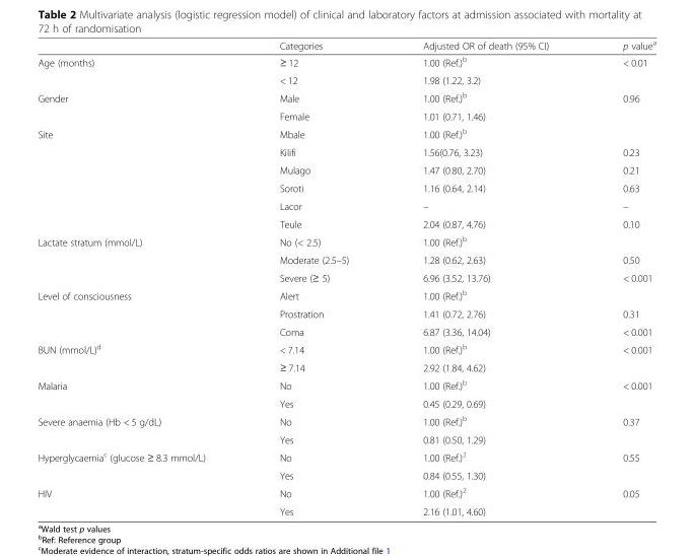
<table><thead><tr><td></td><td>Categories</td><td>Adjusted OR of death (95% CI)</td><td>p value<sup>a</sup></td></tr></thead><tbody><tr><td rowspan="2">Age (months)</td><td>≥ 12</td><td>1.00 (Ref.)<sup>b</sup></td><td rowspan="2">&lt; 0.01</td></tr><tr><td>&lt; 12</td><td>1.98 (1.22, 3.2)</td></tr><tr><td rowspan="2">Gender</td><td>Male</td><td>1.00 (Ref.)<sup>b</sup></td><td rowspan="2">0.96</td></tr><tr><td>Female</td><td>1.01 (0.71, 1.46)</td></tr><tr><td rowspan="6">Site</td><td>Mbale</td><td>1.00 (Ref.)<sup>b</sup></td><td></td></tr><tr><td>Kilifi</td><td>1.56(0.76, 3.23)</td><td>0.23</td></tr><tr><td>Mulago</td><td>1.47 (0.80, 2.70)</td><td>0.21</td></tr><tr><td>Soroti</td><td>1.16 (0.64, 2.14)</td><td>0.63</td></tr><tr><td>Lacor</td><td>–</td><td>–</td></tr><tr><td>Teule</td><td>2.04 (0.87, 4.76)</td><td>0.10</td></tr><tr><td rowspan="3">Lactate stratum (mmol/L)</td><td>No (&lt; 2.5)</td><td>1.00 (Ref.)<sup>b</sup></td><td></td></tr><tr><td>Moderate (2.5–5)</td><td>1.28 (0.62, 2.63)</td><td>0.50</td></tr><tr><td>Severe (≥ 5)</td><td>6.96 (3.52, 13.76)</td><td>&lt; 0.001</td></tr><tr><td rowspan="3">Level of consciousness</td><td>Alert</td><td>1.00 (Ref.)<sup>b</sup></td><td></td></tr><tr><td>Prostration</td><td>1.41 (0.72, 2.76)</td><td>0.31</td></tr><tr><td>Coma</td><td>6.87 (3.36, 14.04)</td><td>&lt; 0.001</td></tr><tr><td rowspan="2">BUN (mmol/L)<sup>d</sup></td><td>&lt; 7.14</td><td>1.00 (Ref.)<sup>b</sup></td><td rowspan="2">&lt; 0.001</td></tr><tr><td>≥ 7.14</td><td>2.92 (1.84, 4.62)</td></tr><tr><td rowspan="2">Malaria</td><td>No</td><td>1.00 (Ref.)<sup>b</sup></td><td rowspan="2">&lt; 0.001</td></tr><tr><td>Yes</td><td>0.45 (0.29, 0.69)</td></tr><tr><td rowspan="2">Severe anaemia (Hb &lt; 5 g/dL)</td><td>No</td><td>1.00 (Ref.)<sup>b</sup></td><td rowspan="2">0.37</td></tr><tr><td>Yes</td><td>0.81 (0.50, 1.29)</td></tr><tr><td rowspan="2">Hyperglycaemia<sup>c</sup> (glucose ≥ 8.3 mmol/L)</td><td>No</td><td>1.00 (Ref.)<sup>2</sup></td><td rowspan="2">0.55</td></tr><tr><td>Yes</td><td>0.84 (0.55, 1.30)</td></tr><tr><td rowspan="2">HIV</td><td>No</td><td>1.00 (Ref.)<sup>2</sup></td><td rowspan="2">0.05</td></tr><tr><td>Yes</td><td>2.16 (1.01, 4.60)</td></tr></tbody></table>